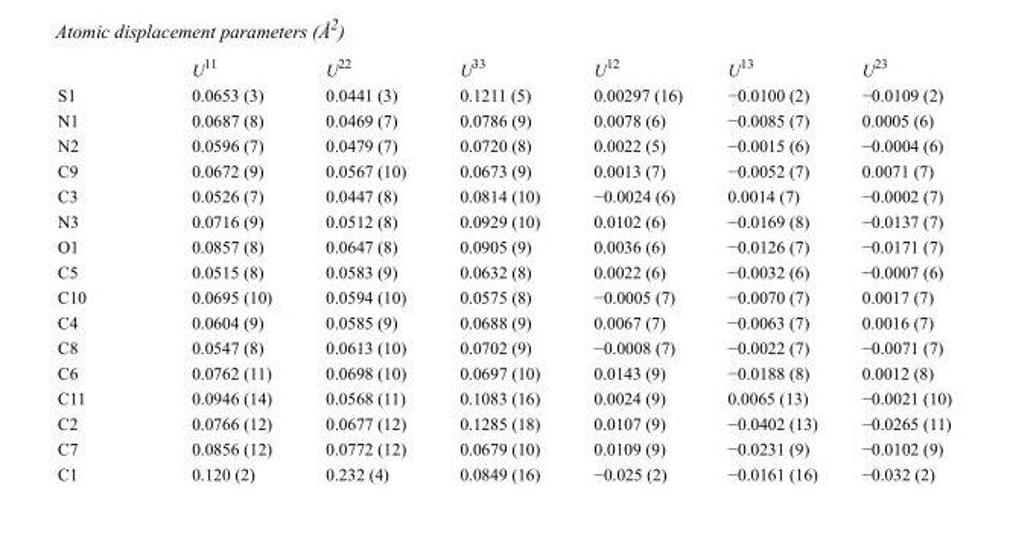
<table><thead><tr><td></td><td>U<sup>11</sup></td><td>U<sup>22</sup></td><td>U<sup>33</sup></td><td>U<sup>12</sup></td><td>U<sup>13</sup></td><td>U<sup>23</sup></td></tr></thead><tbody><tr><td>S1</td><td>0.0653 (3)</td><td>0.0441 (3)</td><td>0.1211 (5)</td><td>0.00297 (16)</td><td>−0.0100 (2)</td><td>−0.0109 (2)</td></tr><tr><td>N1</td><td>0.0687 (8)</td><td>0.0469 (7)</td><td>0.0786 (9)</td><td>0.0078 (6)</td><td>−0.0085 (7)</td><td>0.0005 (6)</td></tr><tr><td>N2</td><td>0.0596 (7)</td><td>0.0479 (7)</td><td>0.0720 (8)</td><td>0.0022 (5)</td><td>−0.0015 (6)</td><td>−0.0004 (6)</td></tr><tr><td>C9</td><td>0.0672 (9)</td><td>0.0567 (10)</td><td>0.0673 (9)</td><td>0.0013 (7)</td><td>−0.0052 (7)</td><td>0.0071 (7)</td></tr><tr><td>C3</td><td>0.0526 (7)</td><td>0.0447 (8)</td><td>0.0814 (10)</td><td>−0.0024 (6)</td><td>0.0014 (7)</td><td>−0.0002 (7)</td></tr><tr><td>N3</td><td>0.0716 (9)</td><td>0.0512 (8)</td><td>0.0929 (10)</td><td>0.0102 (6)</td><td>−0.0169 (8)</td><td>−0.0137 (7)</td></tr><tr><td>O1</td><td>0.0857 (8)</td><td>0.0647 (8)</td><td>0.0905 (9)</td><td>0.0036 (6)</td><td>−0.0126 (7)</td><td>−0.0171 (7)</td></tr><tr><td>C5</td><td>0.0515 (8)</td><td>0.0583 (9)</td><td>0.0632 (8)</td><td>0.0022 (6)</td><td>−0.0032 (6)</td><td>−0.0007 (6)</td></tr><tr><td>C10</td><td>0.0695 (10)</td><td>0.0594 (10)</td><td>0.0575 (8)</td><td>−0.0005 (7)</td><td>−0.0070 (7)</td><td>0.0017 (7)</td></tr><tr><td>C4</td><td>0.0604 (9)</td><td>0.0585 (9)</td><td>0.0688 (9)</td><td>0.0067 (7)</td><td>−0.0063 (7)</td><td>0.0016 (7)</td></tr><tr><td>C8</td><td>0.0547 (8)</td><td>0.0613 (10)</td><td>0.0702 (9)</td><td>−0.0008 (7)</td><td>−0.0022 (7)</td><td>−0.0071 (7)</td></tr><tr><td>C6</td><td>0.0762 (11)</td><td>0.0698 (10)</td><td>0.0697 (10)</td><td>0.0143 (9)</td><td>−0.0188 (8)</td><td>0.0012 (8)</td></tr><tr><td>C11</td><td>0.0946 (14)</td><td>0.0568 (11)</td><td>0.1083 (16)</td><td>0.0024 (9)</td><td>0.0065 (13)</td><td>−0.0021 (10)</td></tr><tr><td>C2</td><td>0.0766 (12)</td><td>0.0677 (12)</td><td>0.1285 (18)</td><td>0.0107 (9)</td><td>−0.0402 (13)</td><td>−0.0265 (11)</td></tr><tr><td>C7</td><td>0.0856 (12)</td><td>0.0772 (12)</td><td>0.0679 (10)</td><td>0.0109 (9)</td><td>−0.0231 (9)</td><td>−0.0102 (9)</td></tr><tr><td>C1</td><td>0.120 (2)</td><td>0.232 (4)</td><td>0.0849 (16)</td><td>−0.025 (2)</td><td>−0.0161 (16)</td><td>−0.032 (2)</td></tr></tbody></table>